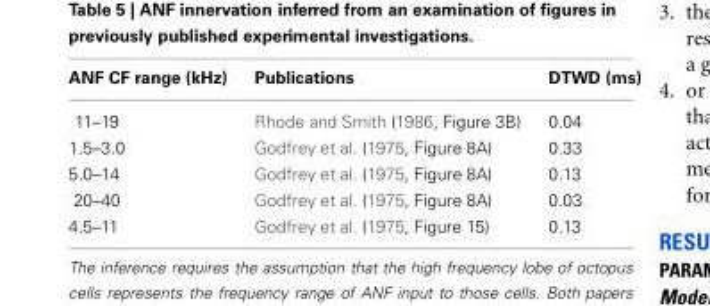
<table><thead><tr><td>ANF CF range (kHz)</td><td>Publications</td><td>DTWD (ms)</td></tr></thead><tbody><tr><td>11–19</td><td>Rhode and Smith (1986, Figure 3B)</td><td>0.04</td></tr><tr><td>1.5–3.0</td><td>Godfrey et al. (1975, Figure 8A)</td><td>0.33</td></tr><tr><td>5.0–14</td><td>Godfrey et al. (1975, Figure 8A)</td><td>0.13</td></tr><tr><td>20–40</td><td>Godfrey et al. (1975, Figure 8A)</td><td>0.03</td></tr><tr><td>4.5–11</td><td>Godfrey et al. (1975, Figure 15)</td><td>0.13</td></tr></tbody></table>